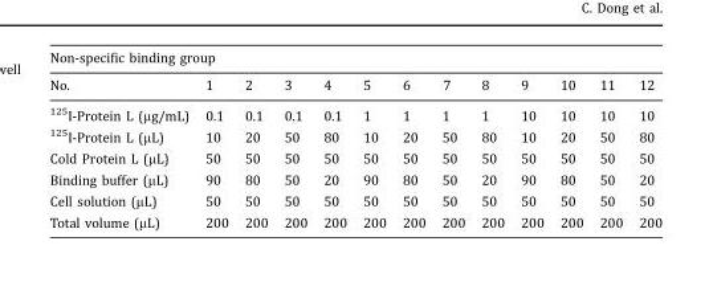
<table><thead><tr><td colspan="13">Non-specific binding group</td></tr><tr><td>No.</td><td>1</td><td>2</td><td>3</td><td>4</td><td>5</td><td>6</td><td>7</td><td>8</td><td>9</td><td>10</td><td>11</td><td>12</td></tr></thead><tbody><tr><td><sup>125</sup>I-Protein L (μg/mL)</td><td>0.1</td><td>0.1</td><td>0.1</td><td>0.1</td><td>1</td><td>1</td><td>1</td><td>1</td><td>10</td><td>10</td><td>10</td><td>10</td></tr><tr><td><sup>125</sup>I-Protein L (μL)</td><td>10</td><td>20</td><td>50</td><td>80</td><td>10</td><td>20</td><td>50</td><td>80</td><td>10</td><td>20</td><td>50</td><td>80</td></tr><tr><td>Cold Protein L (μL)</td><td>50</td><td>50</td><td>50</td><td>50</td><td>50</td><td>50</td><td>50</td><td>50</td><td>50</td><td>50</td><td>50</td><td>50</td></tr><tr><td>Binding buffer (μL)</td><td>90</td><td>80</td><td>50</td><td>20</td><td>90</td><td>80</td><td>50</td><td>20</td><td>90</td><td>80</td><td>50</td><td>20</td></tr><tr><td>Cell solution (μL)</td><td>50</td><td>50</td><td>50</td><td>50</td><td>50</td><td>50</td><td>50</td><td>50</td><td>50</td><td>50</td><td>50</td><td>50</td></tr><tr><td>Total volume (μL)</td><td>200</td><td>200</td><td>200</td><td>200</td><td>200</td><td>200</td><td>200</td><td>200</td><td>200</td><td>200</td><td>200</td><td>200</td></tr></tbody></table>